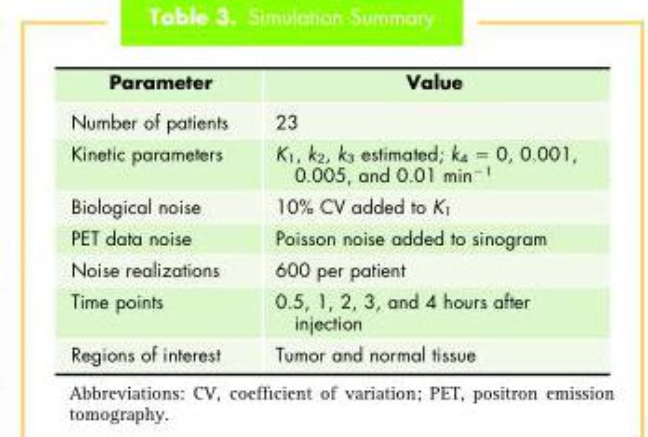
<table><thead><tr><td>Parameter</td><td>Value</td></tr></thead><tbody><tr><td>Number of patients</td><td>23</td></tr><tr><td>Kinetic parameters</td><td>K<sub>1</sub>, k<sub>2</sub>, k<sub>3</sub> estimated; k<sub>4</sub> = 0, 0.001, 0.005, and 0.01 min<sup>−1</sup></td></tr><tr><td>Biological noise</td><td>10% CV added to K<sub>1</sub></td></tr><tr><td>PET data noise</td><td>Poisson noise added to sinogram</td></tr><tr><td>Noise realizations</td><td>600 per patient</td></tr><tr><td>Time points</td><td>0.5, 1, 2, 3, and 4 hours after injection</td></tr><tr><td>Regions of interest</td><td>Tumor and normal tissue</td></tr></tbody></table>